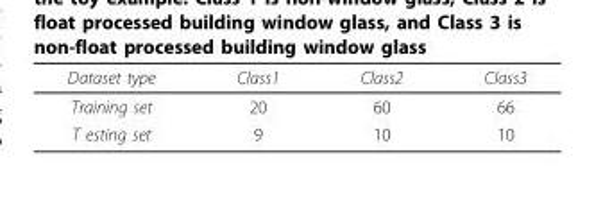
<table><thead><tr><td>Dataset type</td><td>Class1</td><td>Class2</td><td>Class3</td></tr></thead><tbody><tr><td>Training set</td><td>20</td><td>60</td><td>66</td></tr><tr><td>T esting set</td><td>9</td><td>10</td><td>10</td></tr></tbody></table>